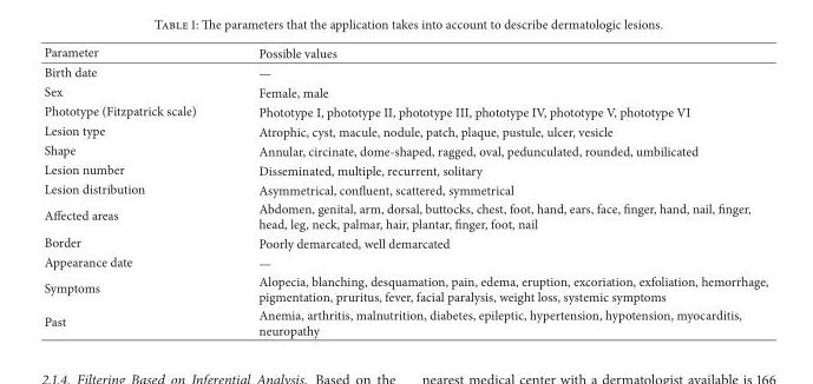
<table><thead><tr><td>Parameter</td><td>Possible values</td></tr></thead><tbody><tr><td>Birth date</td><td>—</td></tr><tr><td>Sex</td><td>Female, male</td></tr><tr><td>Phototype (Fitzpatrick scale)</td><td>Phototype I, phototype II, phototype III, phototype IV, phototype V, phototype VI</td></tr><tr><td>Lesion type</td><td>Atrophic, cyst, macule, nodule, patch, plaque, pustule, ulcer, vesicle</td></tr><tr><td>Shape</td><td>Annular, circinate, dome-shaped, ragged, oval, pedunculated, rounded, umbilicated</td></tr><tr><td>Lesion number</td><td>Disseminated, multiple, recurrent, solitary</td></tr><tr><td>Lesion distribution</td><td>Asymmetrical, confluent, scattered, symmetrical</td></tr><tr><td>Affected areas</td><td>Abdomen, genital, arm, dorsal, buttocks, chest, foot, hand, ears, face, finger, hand, nail, finger, head, leg, neck, palmar, hair, plantar, finger, foot, nail</td></tr><tr><td>Border</td><td>Poorly demarcated, well demarcated</td></tr><tr><td>Appearance date</td><td>—</td></tr><tr><td>Symptoms</td><td>Alopecia, blanching, desquamation, pain, edema, eruption, excoriation, exfoliation, hemorrhage, pigmentation, pruritus, fever, facial paralysis, weight loss, systemic symptoms</td></tr><tr><td>Past</td><td>Anemia, arthritis, malnutrition, diabetes, epileptic, hypertension, hypotension, myocarditis, neuropathy</td></tr></tbody></table>